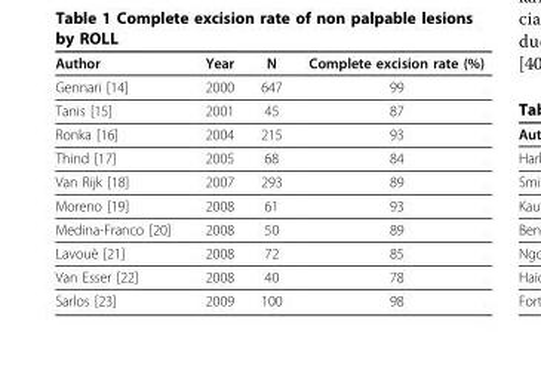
<table><thead><tr><td>Author</td><td>Year</td><td>N</td><td>Complete excision rate (%)</td></tr></thead><tbody><tr><td>Gennari [14]</td><td>2000</td><td>647</td><td>99</td></tr><tr><td>Tanis [15]</td><td>2001</td><td>45</td><td>87</td></tr><tr><td>Ronka [16]</td><td>2004</td><td>215</td><td>93</td></tr><tr><td>Thind [17]</td><td>2005</td><td>68</td><td>84</td></tr><tr><td>Van Rijk [18]</td><td>2007</td><td>293</td><td>89</td></tr><tr><td>Moreno [19]</td><td>2008</td><td>61</td><td>93</td></tr><tr><td>Medina-Franco [20]</td><td>2008</td><td>50</td><td>89</td></tr><tr><td>Lavouè [21]</td><td>2008</td><td>72</td><td>85</td></tr><tr><td>Van Esser [22]</td><td>2008</td><td>40</td><td>78</td></tr><tr><td>Sarlos [23]</td><td>2009</td><td>100</td><td>98</td></tr></tbody></table>